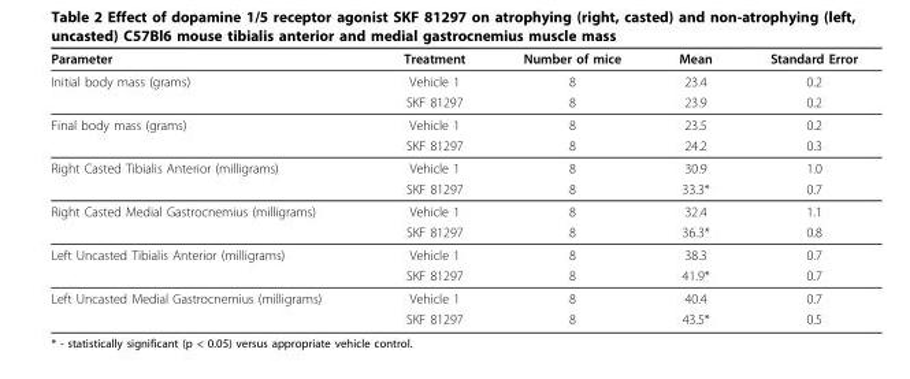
<table><thead><tr><td>Parameter</td><td>Treatment</td><td>Number of mice</td><td>Mean</td><td>Standard Error</td></tr></thead><tbody><tr><td rowspan="2">Initial body mass (grams)</td><td>Vehicle 1</td><td>8</td><td>23.4</td><td>0.2</td></tr><tr><td>SKF 81297</td><td>8</td><td>23.9</td><td>0.2</td></tr><tr><td rowspan="2">Final body mass (grams)</td><td>Vehicle 1</td><td>8</td><td>23.5</td><td>0.2</td></tr><tr><td>SKF 81297</td><td>8</td><td>24.2</td><td>0.3</td></tr><tr><td rowspan="2">Right Casted Tibialis Anterior (milligrams)</td><td>Vehicle 1</td><td>8</td><td>30.9</td><td>1.0</td></tr><tr><td>SKF 81297</td><td>8</td><td>33.3*</td><td>0.7</td></tr><tr><td rowspan="2">Right Casted Medial Gastrocnemius (milligrams)</td><td>Vehicle 1</td><td>8</td><td>32.4</td><td>1.1</td></tr><tr><td>SKF 81297</td><td>8</td><td>36.3*</td><td>0.8</td></tr><tr><td rowspan="2">Left Uncasted Tibialis Anterior (milligrams)</td><td>Vehicle 1</td><td>8</td><td>38.3</td><td>0.7</td></tr><tr><td>SKF 81297</td><td>8</td><td>41.9*</td><td>0.7</td></tr><tr><td rowspan="2">Left Uncasted Medial Gastrocnemius (milligrams)</td><td>Vehicle 1</td><td>8</td><td>40.4</td><td>0.7</td></tr><tr><td>SKF 81297</td><td>8</td><td>43.5*</td><td>0.5</td></tr></tbody></table>